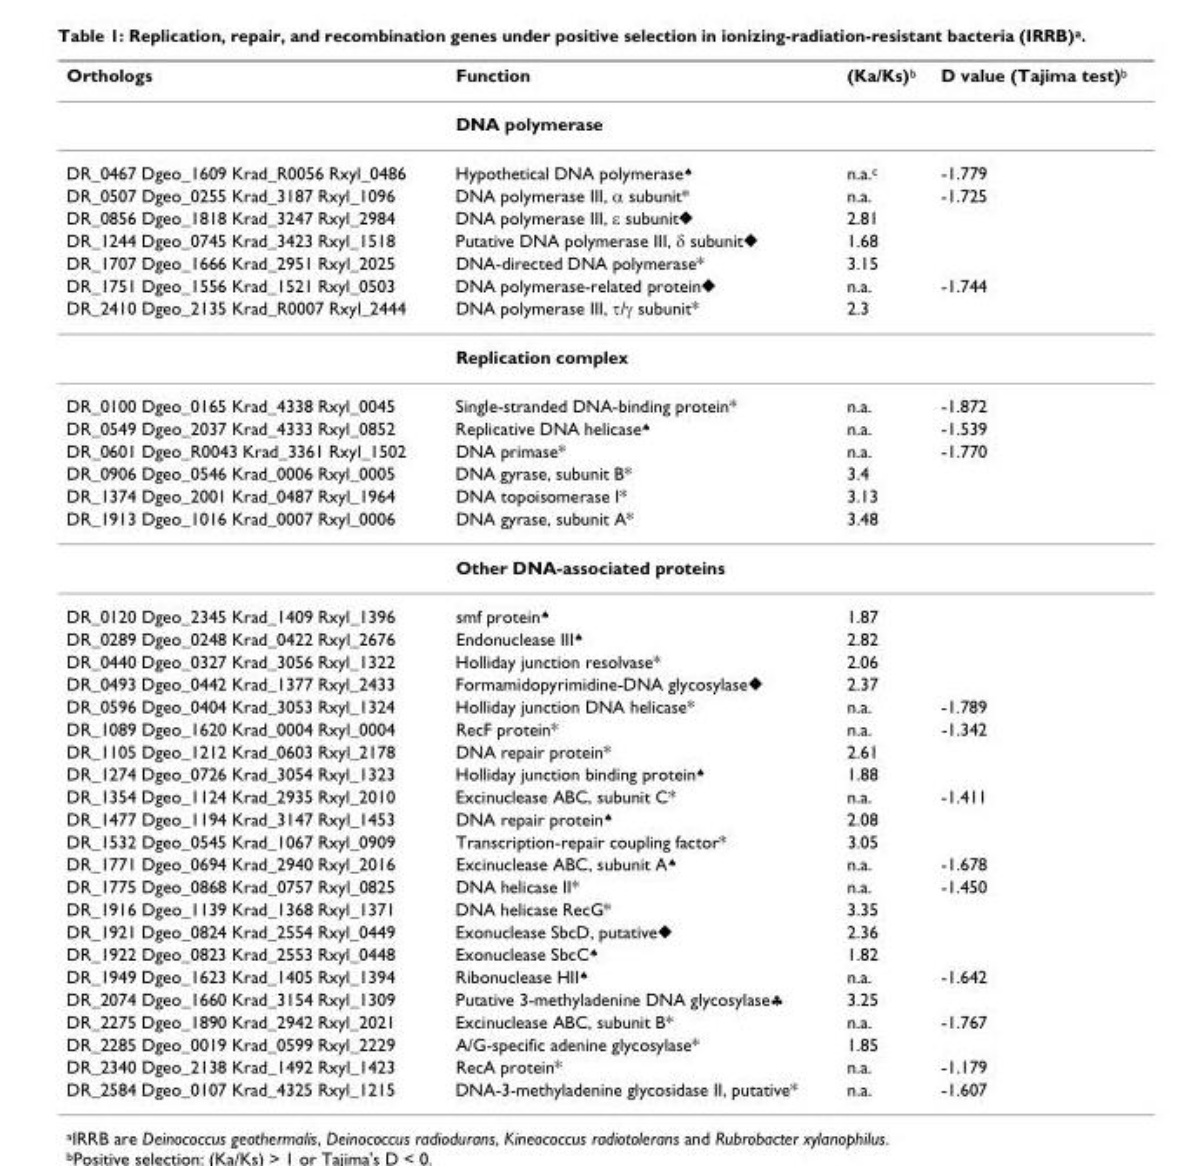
<table><thead><tr><td>Orthologs</td><td>Function</td><td>(Ka/Ks)<sup>b</sup></td><td>D value (Tajima test)<sup>b</sup></td></tr></thead><tbody><tr><td></td><td>DNA polymerase</td><td></td><td></td></tr><tr><td>DR_0467 Dgeo_1609 Krad_R0056 Rxyl_0486</td><td>Hypothetical DNA polymerase<sup>♠</sup></td><td>n.a.<sup>c</sup></td><td>-1.779</td></tr><tr><td>DR_0507 Dgeo_0255 Krad_3187 Rxyl_1096</td><td>DNA polymerase III, α subunit*</td><td>n.a.</td><td>-1.725</td></tr><tr><td>DR_0856 Dgeo_1818 Krad_3247 Rxyl_2984</td><td>DNA polymerase III, ε subunit◆</td><td>2.81</td><td></td></tr><tr><td>DR_1244 Dgeo_0745 Krad_3423 Rxyl_1518</td><td>Putative DNA polymerase III, δ subunit◆</td><td>1.68</td><td></td></tr><tr><td>DR_1707 Dgeo_1666 Krad_2951 Rxyl_2025</td><td>DNA-directed DNA polymerase*</td><td>3.15</td><td></td></tr><tr><td>DR_1751 Dgeo_1556 Krad_1521 Rxyl_0503</td><td>DNA polymerase-related protein◆</td><td>n.a.</td><td>-1.744</td></tr><tr><td rowspan="2">DR_2410 Dgeo_2135 Krad_R0007 Rxyl_2444</td><td>DNA polymerase III, τ/γ subunit*</td><td>2.3</td><td></td></tr><tr><td>Replication complex</td><td></td><td></td></tr><tr><td>DR_0100 Dgeo_0165 Krad_4338 Rxyl_0045</td><td>Single-stranded DNA-binding protein*</td><td>n.a.</td><td>-1.872</td></tr><tr><td>DR_0549 Dgeo_2037 Krad_4333 Rxyl_0852</td><td>Replicative DNA helicase<sup>♠</sup></td><td>n.a.</td><td>-1.539</td></tr><tr><td>DR_0601 Dgeo_R0043 Krad_3361 Rxyl_1502</td><td>DNA primase*</td><td>n.a.</td><td>-1.770</td></tr><tr><td>DR_0906 Dgeo_0546 Krad_0006 Rxyl_0005</td><td>DNA gyrase, subunit B*</td><td>3.4</td><td></td></tr><tr><td>DR_1374 Dgeo_2001 Krad_0487 Rxyl_1964</td><td>DNA topoisomerase I*</td><td>3.13</td><td></td></tr><tr><td rowspan="2">DR_1913 Dgeo_1016 Krad_0007 Rxyl_0006</td><td>DNA gyrase, subunit A*</td><td>3.48</td><td></td></tr><tr><td>Other DNA-associated proteins</td><td></td><td></td></tr><tr><td>DR_0120 Dgeo_2345 Krad_1409 Rxyl_1396</td><td>smf protein<sup>♠</sup></td><td>1.87</td><td></td></tr><tr><td>DR_0289 Dgeo_0248 Krad_0422 Rxyl_2676</td><td>Endonuclease III<sup>♠</sup></td><td>2.82</td><td></td></tr><tr><td>DR_0440 Dgeo_0327 Krad_3056 Rxyl_1322</td><td>Holliday junction resolvase*</td><td>2.06</td><td></td></tr><tr><td>DR_0493 Dgeo_0442 Krad_1377 Rxyl_2433</td><td>Formamidopyrimidine-DNA glycosylase◆</td><td>2.37</td><td></td></tr><tr><td>DR_0596 Dgeo_0404 Krad_3053 Rxyl_1324</td><td>Holliday junction DNA helicase*</td><td>n.a.</td><td>-1.789</td></tr><tr><td>DR_1089 Dgeo_1620 Krad_0004 Rxyl_0004</td><td>RecF protein*</td><td>n.a.</td><td>-1.342</td></tr><tr><td>DR_1105 Dgeo_1212 Krad_0603 Rxyl_2178</td><td>DNA repair protein*</td><td>2.61</td><td></td></tr><tr><td>DR_1274 Dgeo_0726 Krad_3054 Rxyl_1323</td><td>Holliday junction binding protein<sup>♠</sup></td><td>1.88</td><td></td></tr><tr><td>DR_1354 Dgeo_1124 Krad_2935 Rxyl_2010</td><td>Excinuclease ABC, subunit C*</td><td>n.a.</td><td>-1.411</td></tr><tr><td>DR_1477 Dgeo_1194 Krad_3147 Rxyl_1453</td><td>DNA repair protein<sup>♠</sup></td><td>2.08</td><td></td></tr><tr><td>DR_1532 Dgeo_0545 Krad_1067 Rxyl_0909</td><td>Transcription-repair coupling factor*</td><td>3.05</td><td></td></tr><tr><td>DR_1771 Dgeo_0694 Krad_2940 Rxyl_2016</td><td>Excinuclease ABC, subunit A<sup>♠</sup></td><td>n.a.</td><td>-1.678</td></tr><tr><td>DR_1775 Dgeo_0868 Krad_0757 Rxyl_0825</td><td>DNA helicase II*</td><td>n.a.</td><td>-1.450</td></tr><tr><td>DR_1916 Dgeo_1139 Krad_1368 Rxyl_1371</td><td>DNA helicase RecG*</td><td>3.35</td><td></td></tr><tr><td>DR_1921 Dgeo_0824 Krad_2554 Rxyl_0449</td><td>Exonuclease SbcD, putative◆</td><td>2.36</td><td></td></tr><tr><td>DR_1922 Dgeo_0823 Krad_2553 Rxyl_0448</td><td>Exonuclease SbcC<sup>♠</sup></td><td>1.82</td><td></td></tr><tr><td>DR_1949 Dgeo_1623 Krad_1405 Rxyl_1394</td><td>Ribonuclease HII<sup>♠</sup></td><td>n.a.</td><td>-1.642</td></tr><tr><td>DR_2074 Dgeo_1660 Krad_3154 Rxyl_1309</td><td>Putative 3-methyladenine DNA glycosylase♣</td><td>3.25</td><td></td></tr><tr><td>DR_2275 Dgeo_1890 Krad_2942 Rxyl_2021</td><td>Excinuclease ABC, subunit B*</td><td>n.a.</td><td>-1.767</td></tr><tr><td>DR_2285 Dgeo_0019 Krad_0599 Rxyl_2229</td><td>A/G-specific adenine glycosylase*</td><td>1.85</td><td></td></tr><tr><td>DR_2340 Dgeo_2138 Krad_1492 Rxyl_1423</td><td>RecA protein*</td><td>n.a.</td><td>-1.179</td></tr><tr><td>DR_2584 Dgeo_0107 Krad_4325 Rxyl_1215</td><td>DNA-3-methyladenine glycosidase II, putative*</td><td>n.a.</td><td>-1.607</td></tr></tbody></table>